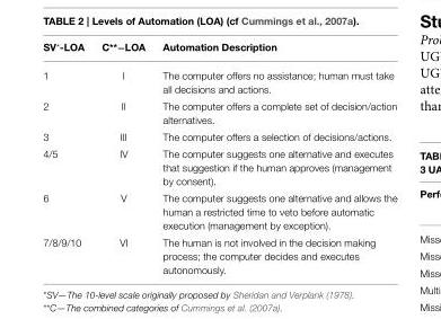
<table><thead><tr><td>SV*-LOA</td><td>C**−LOA</td><td>Automation Description</td></tr></thead><tbody><tr><td>1</td><td>I</td><td>The computer offers no assistance; human must take all decisions and actions.</td></tr><tr><td>2</td><td>II</td><td>The computer offers a complete set of decision/action alternatives.</td></tr><tr><td>3</td><td>III</td><td>The computer offers a selection of decisions/actions.</td></tr><tr><td>4/5</td><td>IV</td><td>The computer suggests one alternative and executes that suggestion if the human approves (management by consent).</td></tr><tr><td>6</td><td>V</td><td>The computer suggests one alternative and allows the human a restricted time to veto before automatic execution (management by exception).</td></tr><tr><td>7/8/9/10</td><td>VI</td><td>The human is not involved in the decision making process; the computer decides and executes autonomously.</td></tr></tbody></table>